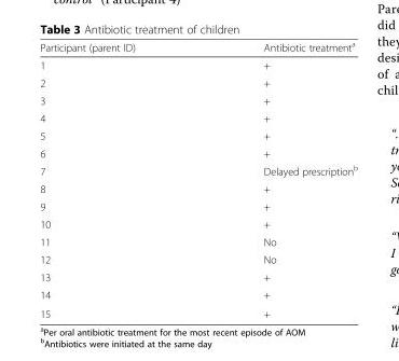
<table><thead><tr><td>Participant (parent ID)</td><td>Antibiotic treatment<sup>a</sup></td></tr></thead><tbody><tr><td>1</td><td>+</td></tr><tr><td>2</td><td>+</td></tr><tr><td>3</td><td>+</td></tr><tr><td>4</td><td>+</td></tr><tr><td>5</td><td>+</td></tr><tr><td>6</td><td>+</td></tr><tr><td>7</td><td>Delayed prescription<sup>b</sup></td></tr><tr><td>8</td><td>+</td></tr><tr><td>9</td><td>+</td></tr><tr><td>10</td><td>+</td></tr><tr><td>11</td><td>No</td></tr><tr><td>12</td><td>No</td></tr><tr><td>13</td><td>+</td></tr><tr><td>14</td><td>+</td></tr><tr><td>15</td><td>+</td></tr></tbody></table>